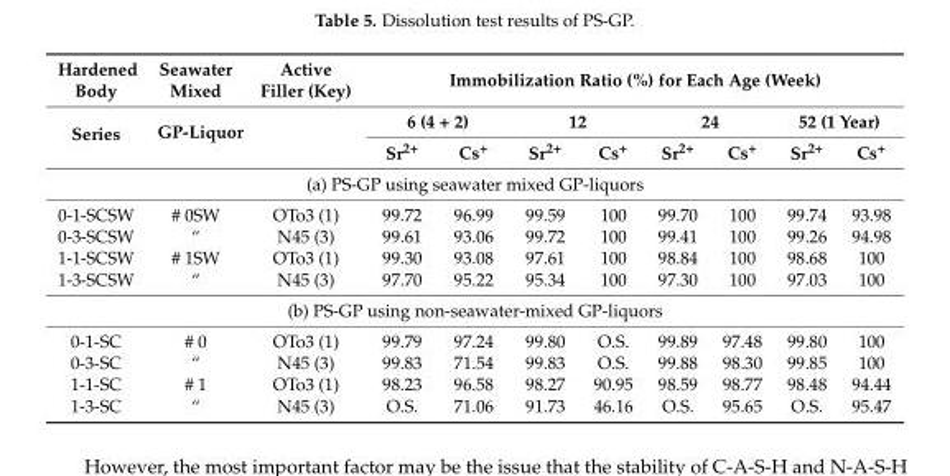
<table><thead><tr><td rowspan="3">Hardened Body Series</td><td rowspan="3">Seawater Mixed GP-Liquor</td><td rowspan="3">Active Filler (Key)</td><td colspan="8">Immobilization Ratio (%) for Each Age (Week)</td></tr><tr><td colspan="2">6 (4 + 2)</td><td colspan="2">12</td><td colspan="2">24</td><td colspan="2">52 (1 Year)</td></tr><tr><td>Sr<sup>2+</sup></td><td>Cs<sup>+</sup></td><td>Sr<sup>2+</sup></td><td>Cs<sup>+</sup></td><td>Sr<sup>2+</sup></td><td>Cs<sup>+</sup></td><td>Sr<sup>2+</sup></td><td>Cs<sup>+</sup></td></tr></thead><tbody><tr><td colspan="11">(a) PS-GP using seawater mixed GP-liquors</td></tr><tr><td>0-1-SCSW</td><td># 0SW</td><td>OTo3 (1)</td><td>99.72</td><td>96.99</td><td>99.59</td><td>100</td><td>99.70</td><td>100</td><td>99.74</td><td>93.98</td></tr><tr><td>0-3-SCSW</td><td>“</td><td>N45 (3)</td><td>99.61</td><td>93.06</td><td>99.72</td><td>100</td><td>99.41</td><td>100</td><td>99.26</td><td>94.98</td></tr><tr><td>1-1-SCSW</td><td># 1SW</td><td>OTo3 (1)</td><td>99.30</td><td>93.08</td><td>97.61</td><td>100</td><td>98.84</td><td>100</td><td>98.68</td><td>100</td></tr><tr><td>1-3-SCSW</td><td>“</td><td>N45 (3)</td><td>97.70</td><td>95.22</td><td>95.34</td><td>100</td><td>97.30</td><td>100</td><td>97.03</td><td>100</td></tr><tr><td colspan="11">(b) PS-GP using non-seawater-mixed GP-liquors</td></tr><tr><td>0-1-SC</td><td># 0</td><td>OTo3 (1)</td><td>99.79</td><td>97.24</td><td>99.80</td><td>O.S.</td><td>99.89</td><td>97.48</td><td>99.80</td><td>100</td></tr><tr><td>0-3-SC</td><td>“</td><td>N45 (3)</td><td>99.83</td><td>71.54</td><td>99.83</td><td>O.S.</td><td>99.88</td><td>98.30</td><td>99.85</td><td>100</td></tr><tr><td>1-1-SC</td><td># 1</td><td>OTo3 (1)</td><td>98.23</td><td>96.58</td><td>98.27</td><td>90.95</td><td>98.59</td><td>98.77</td><td>98.48</td><td>94.44</td></tr><tr><td>1-3-SC</td><td>“</td><td>N45 (3)</td><td>O.S.</td><td>71.06</td><td>91.73</td><td>46.16</td><td>O.S.</td><td>95.65</td><td>O.S.</td><td>95.47</td></tr></tbody></table>